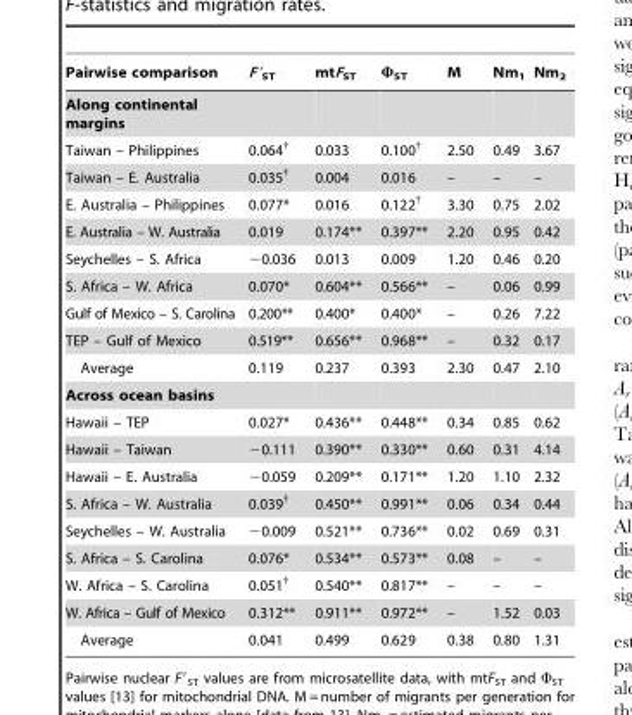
<table><thead><tr><td>Pairwise comparison</td><td>F′<sub>ST</sub></td><td>mtF<sub>ST</sub></td><td>Φ<sub>ST</sub></td><td>M</td><td>Nm<sub>1</sub></td><td>Nm<sub>2</sub></td></tr></thead><tbody><tr><td colspan="7">Along continental margins</td></tr><tr><td>Taiwan – Philippines</td><td>0.064†</td><td>0.033</td><td>0.100†</td><td>2.50</td><td>0.49</td><td>3.67</td></tr><tr><td>Taiwan – E. Australia</td><td>0.035†</td><td>0.004</td><td>0.016</td><td>–</td><td>–</td><td>–</td></tr><tr><td>E. Australia – Philippines</td><td>0.077*</td><td>0.016</td><td>0.122†</td><td>3.30</td><td>0.75</td><td>2.02</td></tr><tr><td>E. Australia – W. Australia</td><td>0.019</td><td>0.174**</td><td>0.397**</td><td>2.20</td><td>0.95</td><td>0.42</td></tr><tr><td>Seychelles – S. Africa</td><td>−0.036</td><td>0.013</td><td>0.009</td><td>1.20</td><td>0.46</td><td>0.20</td></tr><tr><td>S. Africa – W. Africa</td><td>0.070*</td><td>0.604**</td><td>0.566**</td><td>–</td><td>0.06</td><td>0.99</td></tr><tr><td>Gulf of Mexico – S. Carolina</td><td>0.200**</td><td>0.400*</td><td>0.400*</td><td>–</td><td>0.26</td><td>7.22</td></tr><tr><td>TEP – Gulf of Mexico</td><td>0.519**</td><td>0.656**</td><td>0.968**</td><td>–</td><td>0.32</td><td>0.17</td></tr><tr><td>Average</td><td>0.119</td><td>0.237</td><td>0.393</td><td>2.30</td><td>0.47</td><td>2.10</td></tr><tr><td colspan="7">Across ocean basins</td></tr><tr><td>Hawaii – TEP</td><td>0.027*</td><td>0.436**</td><td>0.448**</td><td>0.34</td><td>0.85</td><td>0.62</td></tr><tr><td>Hawaii – Taiwan</td><td>−0.111</td><td>0.390**</td><td>0.330**</td><td>0.60</td><td>0.31</td><td>4.14</td></tr><tr><td>Hawaii – E. Australia</td><td>−0.059</td><td>0.209**</td><td>0.171**</td><td>1.20</td><td>1.10</td><td>2.32</td></tr><tr><td>S. Africa – W. Australia</td><td>0.039†</td><td>0.450**</td><td>0.991**</td><td>0.06</td><td>0.34</td><td>0.44</td></tr><tr><td>Seychelles – W. Australia</td><td>−0.009</td><td>0.521**</td><td>0.736**</td><td>0.02</td><td>0.69</td><td>0.31</td></tr><tr><td>S. Africa – S. Carolina</td><td>0.076*</td><td>0.534**</td><td>0.573**</td><td>0.08</td><td>–</td><td>–</td></tr><tr><td>W. Africa – S. Carolina</td><td>0.051†</td><td>0.540**</td><td>0.817**</td><td>–</td><td>–</td><td>–</td></tr><tr><td>W. Africa – Gulf of Mexico</td><td>0.312**</td><td>0.911**</td><td>0.972**</td><td>–</td><td>1.52</td><td>0.03</td></tr><tr><td>Average</td><td>0.041</td><td>0.499</td><td>0.629</td><td>0.38</td><td>0.80</td><td>1.31</td></tr></tbody></table>